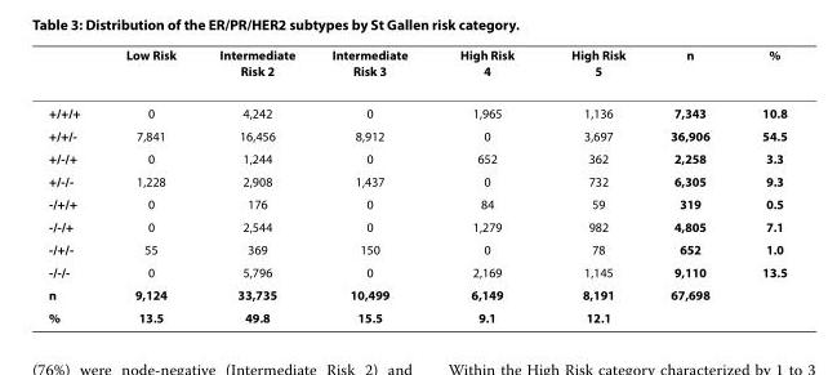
<table><thead><tr><td></td><td>Low Risk</td><td>Intermediate Risk 2</td><td>Intermediate Risk 3</td><td>High Risk 4</td><td>High Risk 5</td><td>n</td><td>%</td></tr></thead><tbody><tr><td>+/+/+</td><td>0</td><td>4,242</td><td>0</td><td>1,965</td><td>1,136</td><td>7,343</td><td>10.8</td></tr><tr><td>+/+/-</td><td>7,841</td><td>16,456</td><td>8,912</td><td>0</td><td>3,697</td><td>36,906</td><td>54.5</td></tr><tr><td>+/-/+</td><td>0</td><td>1,244</td><td>0</td><td>652</td><td>362</td><td>2,258</td><td>3.3</td></tr><tr><td>+/-/-</td><td>1,228</td><td>2,908</td><td>1,437</td><td>0</td><td>732</td><td>6,305</td><td>9.3</td></tr><tr><td>-/+/+</td><td>0</td><td>176</td><td>0</td><td>84</td><td>59</td><td>319</td><td>0.5</td></tr><tr><td>-/-/+</td><td>0</td><td>2,544</td><td>0</td><td>1,279</td><td>982</td><td>4,805</td><td>7.1</td></tr><tr><td>-/+/-</td><td>55</td><td>369</td><td>150</td><td>0</td><td>78</td><td>652</td><td>1.0</td></tr><tr><td>-/-/-</td><td>0</td><td>5,796</td><td>0</td><td>2,169</td><td>1,145</td><td>9,110</td><td>13.5</td></tr><tr><td>n</td><td>9,124</td><td>33,735</td><td>10,499</td><td>6,149</td><td>8,191</td><td>67,698</td><td></td></tr><tr><td>%</td><td>13.5</td><td>49.8</td><td>15.5</td><td>9.1</td><td>12.1</td><td></td><td></td></tr></tbody></table>